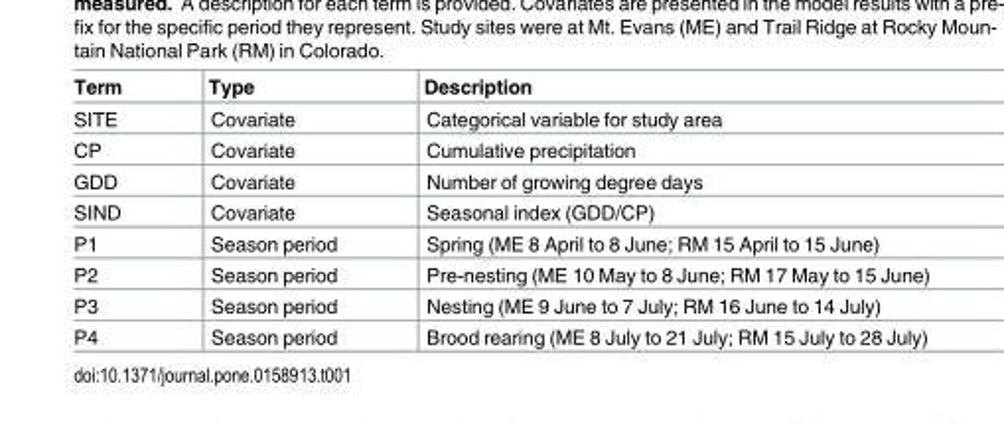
<table><thead><tr><td>Term</td><td>Type</td><td>Description</td></tr></thead><tbody><tr><td>SITE</td><td>Covariate</td><td>Categorical variable for study area</td></tr><tr><td>CP</td><td>Covariate</td><td>Cumulative precipitation</td></tr><tr><td>GDD</td><td>Covariate</td><td>Number of growing degree days</td></tr><tr><td>SIND</td><td>Covariate</td><td>Seasonal index (GDD/CP)</td></tr><tr><td>P1</td><td>Season period</td><td>Spring (ME 8 April to 8 June; RM 15 April to 15 June)</td></tr><tr><td>P2</td><td>Season period</td><td>Pre-nesting (ME 10 May to 8 June; RM 17 May to 15 June)</td></tr><tr><td>P3</td><td>Season period</td><td>Nesting (ME 9 June to 7 July; RM 16 June to 14 July)</td></tr><tr><td>P4</td><td>Season period</td><td>Brood rearing (ME 8 July to 21 July; RM 15 July to 28 July)</td></tr></tbody></table>